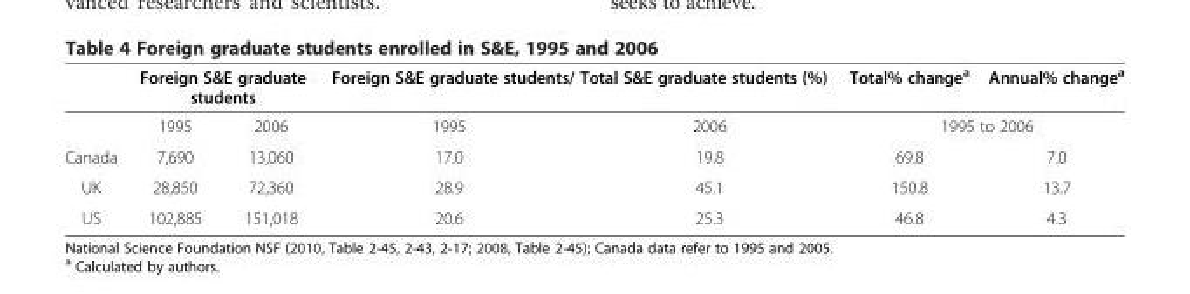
<table><thead><tr><td rowspan="2"></td><td colspan="2">Foreign S&amp;E graduate students</td><td colspan="2">Foreign S&amp;E graduate students/ Total S&amp;E graduate students (%)</td><td>Total% change<sup>a</sup></td><td>Annual% change<sup>a</sup></td></tr><tr><td>1995</td><td>2006</td><td>1995</td><td>2006</td><td colspan="2">1995 to 2006</td></tr></thead><tbody><tr><td>Canada</td><td>7,690</td><td>13,060</td><td>17.0</td><td>19.8</td><td>69.8</td><td>7.0</td></tr><tr><td>UK</td><td>28,850</td><td>72,360</td><td>28.9</td><td>45.1</td><td>150.8</td><td>13.7</td></tr><tr><td>US</td><td>102,885</td><td>151,018</td><td>20.6</td><td>25.3</td><td>46.8</td><td>4.3</td></tr></tbody></table>